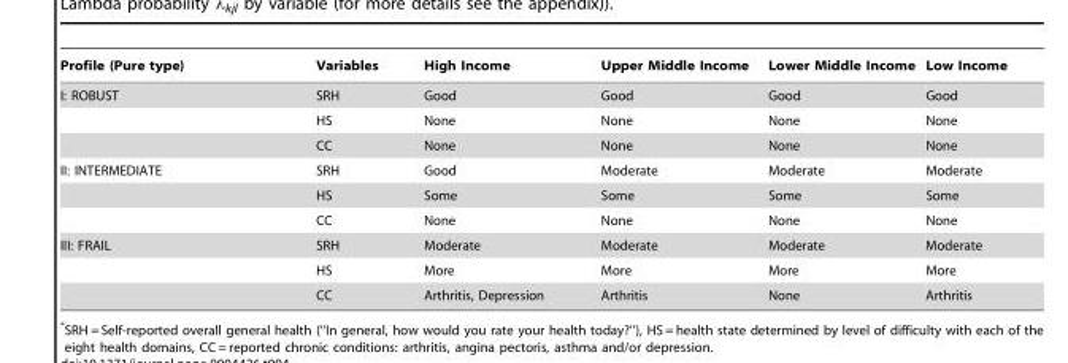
<table><thead><tr><td>Profile (Pure type)</td><td>Variables</td><td>High Income</td><td>Upper Middle Income</td><td>Lower Middle Income</td><td>Low Income</td></tr></thead><tbody><tr><td rowspan="3">I: ROBUST</td><td>SRH</td><td>Good</td><td>Good</td><td>Good</td><td>Good</td></tr><tr><td>HS</td><td>None</td><td>None</td><td>None</td><td>None</td></tr><tr><td>CC</td><td>None</td><td>None</td><td>None</td><td>None</td></tr><tr><td rowspan="3">II: INTERMEDIATE</td><td>SRH</td><td>Good</td><td>Moderate</td><td>Moderate</td><td>Moderate</td></tr><tr><td>HS</td><td>Some</td><td>Some</td><td>Some</td><td>Some</td></tr><tr><td>CC</td><td>None</td><td>None</td><td>None</td><td>None</td></tr><tr><td rowspan="3">III: FRAIL</td><td>SRH</td><td>Moderate</td><td>Moderate</td><td>Moderate</td><td>Moderate</td></tr><tr><td>HS</td><td>More</td><td>More</td><td>More</td><td>More</td></tr><tr><td>CC</td><td>Arthritis, Depression</td><td>Arthritis</td><td>None</td><td>Arthritis</td></tr></tbody></table>